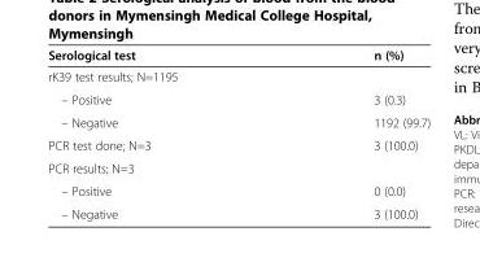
<table><thead><tr><td>Serological test</td><td>n (%)</td></tr></thead><tbody><tr><td colspan="2">rK39 test results; N=1195</td></tr><tr><td>– Positive</td><td>3 (0.3)</td></tr><tr><td>– Negative</td><td>1192 (99.7)</td></tr><tr><td>PCR test done; N=3</td><td>3 (100.0)</td></tr><tr><td colspan="2">PCR results; N=3</td></tr><tr><td>– Positive</td><td>0 (0.0)</td></tr><tr><td>– Negative</td><td>3 (100.0)</td></tr></tbody></table>